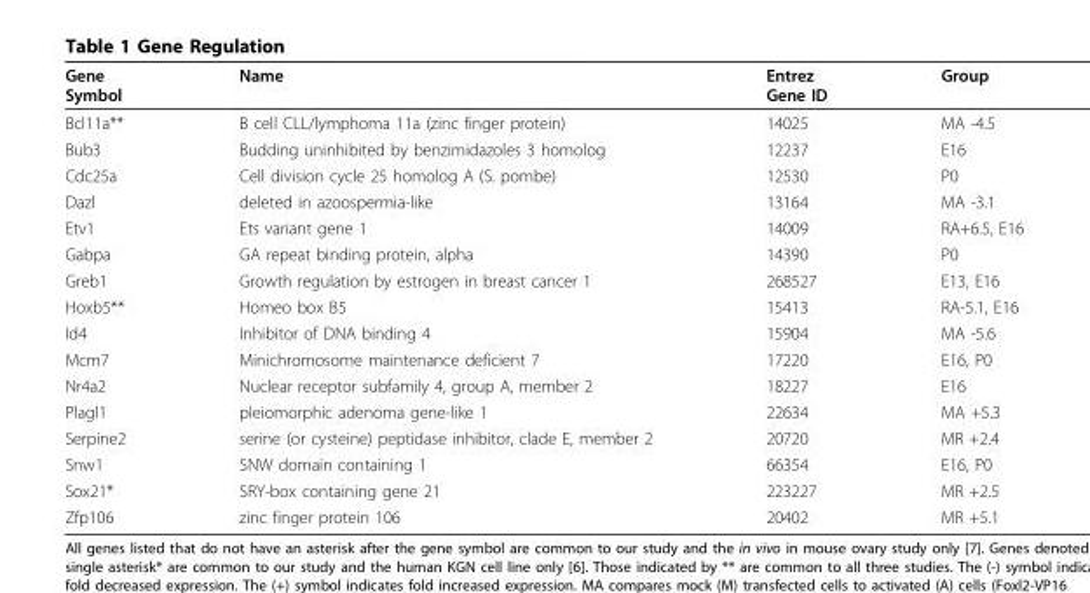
<table><thead><tr><td>Gene Symbol</td><td>Name</td><td>Entrez Gene ID</td><td>Group</td></tr></thead><tbody><tr><td>Bcl11a**</td><td>B cell CLL/lymphoma 11a (zinc finger protein)</td><td>14025</td><td>MA -4.5</td></tr><tr><td>Bub3</td><td>Budding uninhibited by benzimidazoles 3 homolog</td><td>12237</td><td>E16</td></tr><tr><td>Cdc25a</td><td>Cell division cycle 25 homolog A (S. pombe)</td><td>12530</td><td>P0</td></tr><tr><td>Dazl</td><td>deleted in azoospermia-like</td><td>13164</td><td>MA -3.1</td></tr><tr><td>Etv1</td><td>Ets variant gene 1</td><td>14009</td><td>RA+6.5, E16</td></tr><tr><td>Gabpa</td><td>GA repeat binding protein, alpha</td><td>14390</td><td>P0</td></tr><tr><td>Greb1</td><td>Growth regulation by estrogen in breast cancer 1</td><td>268527</td><td>E13, E16</td></tr><tr><td>Hoxb5**</td><td>Homeo box B5</td><td>15413</td><td>RA-5.1, E16</td></tr><tr><td>Id4</td><td>Inhibitor of DNA binding 4</td><td>15904</td><td>MA -5.6</td></tr><tr><td>Mcm7</td><td>Minichromosome maintenance deficient 7</td><td>17220</td><td>E16, P0</td></tr><tr><td>Nr4a2</td><td>Nuclear receptor subfamily 4, group A, member 2</td><td>18227</td><td>E16</td></tr><tr><td>Plagl1</td><td>pleiomorphic adenoma gene-like 1</td><td>22634</td><td>MA +5.3</td></tr><tr><td>Serpine2</td><td>serine (or cysteine) peptidase inhibitor, clade E, member 2</td><td>20720</td><td>MR +2.4</td></tr><tr><td>Snw1</td><td>SNW domain containing 1</td><td>66354</td><td>E16, P0</td></tr><tr><td>Sox21*</td><td>SRY-box containing gene 21</td><td>223227</td><td>MR +2.5</td></tr><tr><td>Zfp106</td><td>zinc finger protein 106</td><td>20402</td><td>MR +5.1</td></tr></tbody></table>